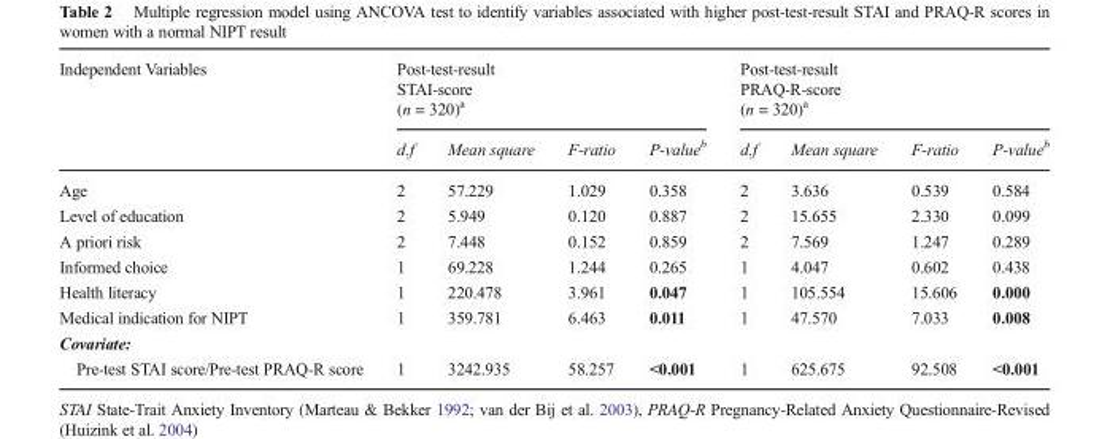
<table><thead><tr><td rowspan="2">Independent Variables</td><td colspan="4">Post-test-result STAI-score (n = 320)<sup>a</sup></td><td colspan="4">Post-test-result PRAQ-R-score (n = 320)<sup>a</sup></td></tr><tr><td>d.f</td><td>Mean square</td><td>F-ratio</td><td>P-value<sup>b</sup></td><td>d.f</td><td>Mean square</td><td>F-ratio</td><td>P-value<sup>b</sup></td></tr></thead><tbody><tr><td>Age</td><td>2</td><td>57.229</td><td>1.029</td><td>0.358</td><td>2</td><td>3.636</td><td>0.539</td><td>0.584</td></tr><tr><td>Level of education</td><td>2</td><td>5.949</td><td>0.120</td><td>0.887</td><td>2</td><td>15.655</td><td>2.330</td><td>0.099</td></tr><tr><td>A priori risk</td><td>2</td><td>7.448</td><td>0.152</td><td>0.859</td><td>2</td><td>7.569</td><td>1.247</td><td>0.289</td></tr><tr><td>Informed choice</td><td>1</td><td>69.228</td><td>1.244</td><td>0.265</td><td>1</td><td>4.047</td><td>0.602</td><td>0.438</td></tr><tr><td>Health literacy</td><td>1</td><td>220.478</td><td>3.961</td><td>0.047</td><td>1</td><td>105.554</td><td>15.606</td><td>0.000</td></tr><tr><td>Medical indication for NIPT</td><td>1</td><td>359.781</td><td>6.463</td><td>0.011</td><td>1</td><td>47.570</td><td>7.033</td><td>0.008</td></tr><tr><td colspan="9">Covariate:</td></tr><tr><td>Pre-test STAI score/Pre-test PRAQ-R score</td><td>1</td><td>3242.935</td><td>58.257</td><td>&lt;0.001</td><td>1</td><td>625.675</td><td>92.508</td><td>&lt;0.001</td></tr></tbody></table>